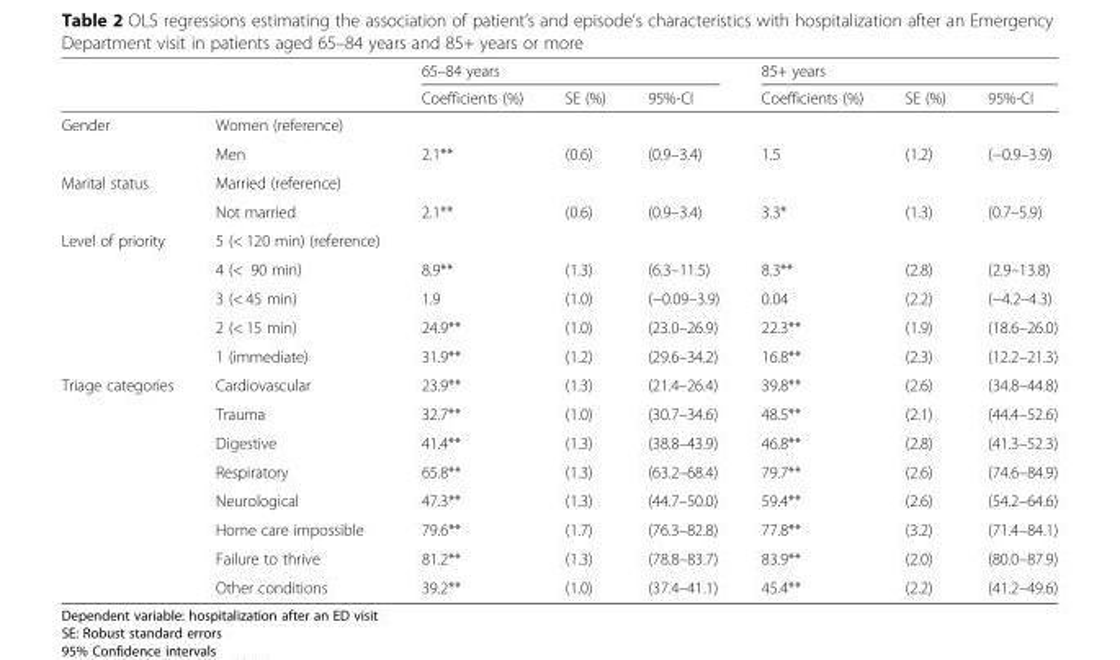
<table><thead><tr><td rowspan="2"></td><td rowspan="2"></td><td colspan="3">65–84 years</td><td colspan="3">85+ years</td></tr><tr><td>Coefficients (%)</td><td>SE (%)</td><td>95%-CI</td><td>Coefficients (%)</td><td>SE (%)</td><td>95%-CI</td></tr></thead><tbody><tr><td rowspan="2">Gender</td><td>Women (reference)</td><td></td><td></td><td></td><td></td><td></td><td></td></tr><tr><td>Men</td><td>2.1**</td><td>(0.6)</td><td>(0.9–3.4)</td><td>1.5</td><td>(1.2)</td><td>(−0.9–3.9)</td></tr><tr><td rowspan="2">Marital status</td><td>Married (reference)</td><td></td><td></td><td></td><td></td><td></td><td></td></tr><tr><td>Not married</td><td>2.1**</td><td>(0.6)</td><td>(0.9–3.4)</td><td>3.3*</td><td>(1.3)</td><td>(0.7–5.9)</td></tr><tr><td rowspan="5">Level of priority</td><td>5 (&lt; 120 min) (reference)</td><td></td><td></td><td></td><td></td><td></td><td></td></tr><tr><td>4 (&lt; 90 min)</td><td>8.9**</td><td>(1.3)</td><td>(6.3–11.5)</td><td>8.3**</td><td>(2.8)</td><td>(2.9–13.8)</td></tr><tr><td>3 (&lt; 45 min)</td><td>1.9</td><td>(1.0)</td><td>(−0.09–3.9)</td><td>0.04</td><td>(2.2)</td><td>(−4.2–4.3)</td></tr><tr><td>2 (&lt; 15 min)</td><td>24.9**</td><td>(1.0)</td><td>(23.0–26.9)</td><td>22.3**</td><td>(1.9)</td><td>(18.6–26.0)</td></tr><tr><td>1 (immediate)</td><td>31.9**</td><td>(1.2)</td><td>(29.6–34.2)</td><td>16.8**</td><td>(2.3)</td><td>(12.2–21.3)</td></tr><tr><td rowspan="8">Triage categories</td><td>Cardiovascular</td><td>23.9**</td><td>(1.3)</td><td>(21.4–26.4)</td><td>39.8**</td><td>(2.6)</td><td>(34.8–44.8)</td></tr><tr><td>Trauma</td><td>32.7**</td><td>(1.0)</td><td>(30.7–34.6)</td><td>48.5**</td><td>(2.1)</td><td>(44.4–52.6)</td></tr><tr><td>Digestive</td><td>41.4**</td><td>(1.3)</td><td>(38.8–43.9)</td><td>46.8**</td><td>(2.8)</td><td>(41.3–52.3)</td></tr><tr><td>Respiratory</td><td>65.8**</td><td>(1.3)</td><td>(63.2–68.4)</td><td>79.7**</td><td>(2.6)</td><td>(74.6–84.9)</td></tr><tr><td>Neurological</td><td>47.3**</td><td>(1.3)</td><td>(44.7–50.0)</td><td>59.4**</td><td>(2.6)</td><td>(54.2–64.6)</td></tr><tr><td>Home care impossible</td><td>79.6**</td><td>(1.7)</td><td>(76.3–82.8)</td><td>77.8**</td><td>(3.2)</td><td>(71.4–84.1)</td></tr><tr><td>Failure to thrive</td><td>81.2**</td><td>(1.3)</td><td>(78.8–83.7)</td><td>83.9**</td><td>(2.0)</td><td>(80.0–87.9)</td></tr><tr><td>Other conditions</td><td>39.2**</td><td>(1.0)</td><td>(37.4–41.1)</td><td>45.4**</td><td>(2.2)</td><td>(41.2–49.6)</td></tr></tbody></table>